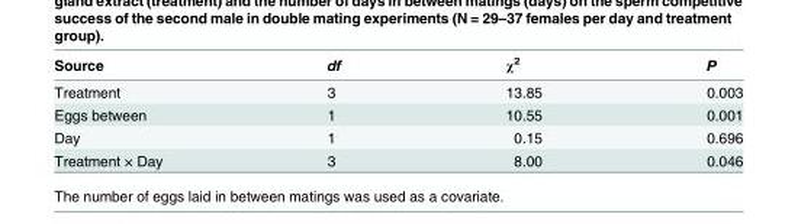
<table><thead><tr><td>Source</td><td>df</td><td>χ<sup>2</sup></td><td>P</td></tr></thead><tbody><tr><td>Treatment</td><td>3</td><td>13.85</td><td>0.003</td></tr><tr><td>Eggs between</td><td>1</td><td>10.55</td><td>0.001</td></tr><tr><td>Day</td><td>1</td><td>0.15</td><td>0.696</td></tr><tr><td>Treatment × Day</td><td>3</td><td>8.00</td><td>0.046</td></tr></tbody></table>